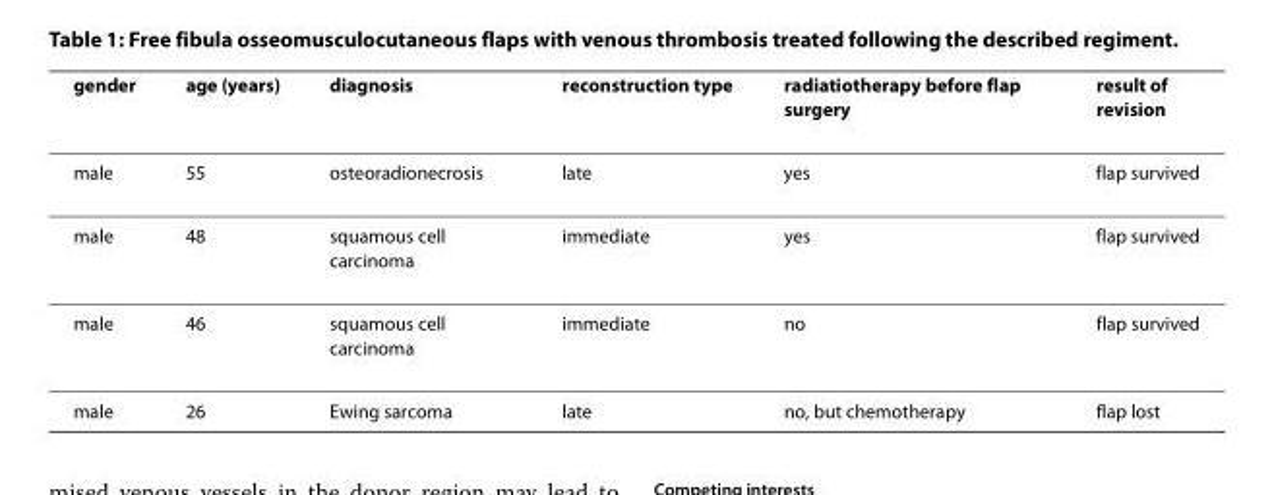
<table><thead><tr><td>gender</td><td>age (years)</td><td>diagnosis</td><td>reconstruction type</td><td>radiatiotherapy before flap surgery</td><td>result of revision</td></tr></thead><tbody><tr><td>male</td><td>55</td><td>osteoradionecrosis</td><td>late</td><td>yes</td><td>flap survived</td></tr><tr><td>male</td><td>48</td><td>squamous cell carcinoma</td><td>immediate</td><td>yes</td><td>flap survived</td></tr><tr><td>male</td><td>46</td><td>squamous cell carcinoma</td><td>immediate</td><td>no</td><td>flap survived</td></tr><tr><td>male</td><td>26</td><td>Ewing sarcoma</td><td>late</td><td>no, but chemotherapy</td><td>flap lost</td></tr></tbody></table>